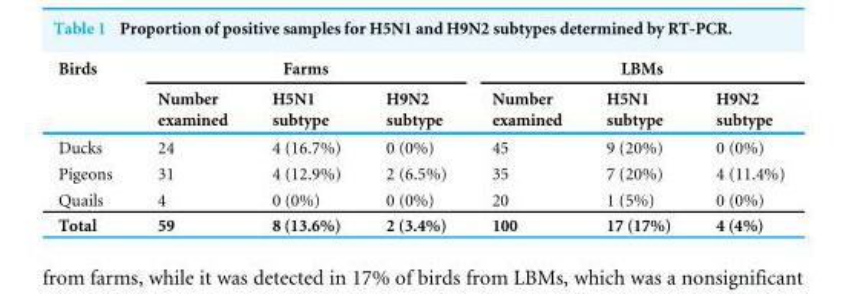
<table><thead><tr><td rowspan="2">Birds</td><td colspan="3">Farms</td><td colspan="3">LBMs</td></tr><tr><td>Number examined</td><td>H5N1 subtype</td><td>H9N2 subtype</td><td>Number examined</td><td>H5N1 subtype</td><td>H9N2 subtype</td></tr></thead><tbody><tr><td>Ducks</td><td>24</td><td>4 (16.7%)</td><td>0 (0%)</td><td>45</td><td>9 (20%)</td><td>0 (0%)</td></tr><tr><td>Pigeons</td><td>31</td><td>4 (12.9%)</td><td>2 (6.5%)</td><td>35</td><td>7 (20%)</td><td>4 (11.4%)</td></tr><tr><td>Quails</td><td>4</td><td>0 (0%)</td><td>0 (0%)</td><td>20</td><td>1 (5%)</td><td>0 (0%)</td></tr><tr><td>Total</td><td>59</td><td>8 (13.6%)</td><td>2 (3.4%)</td><td>100</td><td>17 (17%)</td><td>4 (4%)</td></tr></tbody></table>